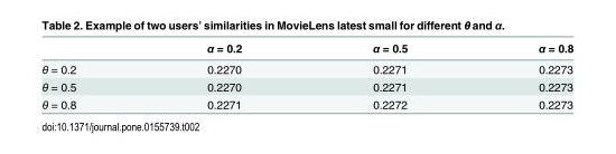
<table><thead><tr><td></td><td>α = 0.2</td><td>α = 0.5</td><td>α = 0.8</td></tr></thead><tbody><tr><td>θ = 0.2</td><td>0.2270</td><td>0.2271</td><td>0.2273</td></tr><tr><td>θ = 0.5</td><td>0.2270</td><td>0.2271</td><td>0.2273</td></tr><tr><td>θ = 0.8</td><td>0.2271</td><td>0.2272</td><td>0.2273</td></tr></tbody></table>